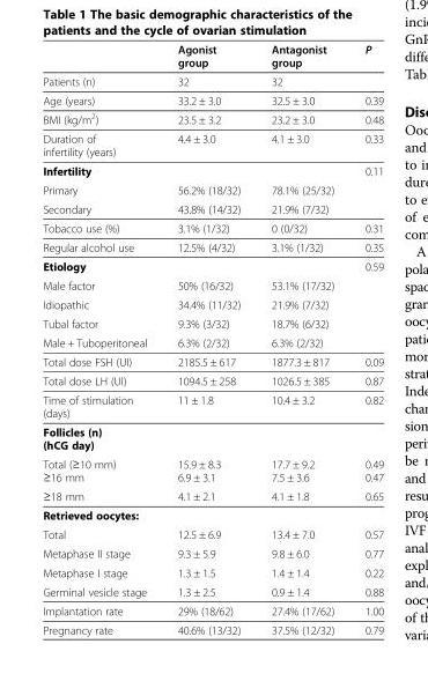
<table><thead><tr><td></td><td>Agonist group</td><td>Antagonist group</td><td>P</td></tr></thead><tbody><tr><td>Patients (n)</td><td>32</td><td>32</td><td></td></tr><tr><td>Age (years)</td><td>33.2 ± 3.0</td><td>32.5 ± 3.0</td><td>0.39</td></tr><tr><td>BMI (kg/m<sup>2</sup>)</td><td>23.5 ± 3.2</td><td>23.2 ± 3.0</td><td>0.48</td></tr><tr><td>Duration of infertility (years)</td><td>4.4 ± 3.0</td><td>4.1 ± 3.0</td><td>0.33</td></tr><tr><td>Infertility</td><td></td><td></td><td>0.11</td></tr><tr><td>Primary</td><td>56.2% (18/32)</td><td>78.1% (25/32)</td><td></td></tr><tr><td>Secondary</td><td>43.8% (14/32)</td><td>21.9% (7/32)</td><td></td></tr><tr><td>Tobacco use (%)</td><td>3.1% (1/32)</td><td>0 (0/32)</td><td>0.31</td></tr><tr><td>Regular alcohol use</td><td>12.5% (4/32)</td><td>3.1% (1/32)</td><td>0.35</td></tr><tr><td>Etiology</td><td></td><td></td><td>0.59</td></tr><tr><td>Male factor</td><td>50% (16/32)</td><td>53.1% (17/32)</td><td></td></tr><tr><td>Idiopathic</td><td>34.4% (11/32)</td><td>21.9% (7/32)</td><td></td></tr><tr><td>Tubal factor</td><td>9.3% (3/32)</td><td>18.7% (6/32)</td><td></td></tr><tr><td>Male + Tuboperitoneal</td><td>6.3% (2/32)</td><td>6.3% (2/32)</td><td></td></tr><tr><td>Total dose FSH (UI)</td><td>2185.5 ± 617</td><td>1877.3 ± 817</td><td>0.09</td></tr><tr><td>Total dose LH (UI)</td><td>1094.5 ± 258</td><td>1026.5 ± 385</td><td>0.87</td></tr><tr><td>Time of stimulation (days)</td><td>11 ± 1.8</td><td>10.4 ± 3.2</td><td>0.82</td></tr><tr><td colspan="4">Follicles (n) (hCG day)</td></tr><tr><td>Total (≥10 mm) ≥16 mm</td><td>15.9 ± 8.3 6.9 ± 3.1</td><td>17.7 ± 9.2 7.5 ± 3.6</td><td>0.49 0.47</td></tr><tr><td>≥18 mm</td><td>4.1 ± 2.1</td><td>4.1 ± 1.8</td><td>0.65</td></tr><tr><td colspan="4">Retrieved oocytes:</td></tr><tr><td>Total</td><td>12.5 ± 6.9</td><td>13.4 ± 7.0</td><td>0.57</td></tr><tr><td>Metaphase II stage</td><td>9.3 ± 5.9</td><td>9.8 ± 6.0</td><td>0.77</td></tr><tr><td>Metaphase I stage</td><td>1.3 ± 1.5</td><td>1.4 ± 1.4</td><td>0.22</td></tr><tr><td>Germinal vesicle stage</td><td>1.3 ± 2.5</td><td>0.9 ± 1.4</td><td>0.88</td></tr><tr><td>Implantation rate</td><td>29% (18/62)</td><td>27.4% (17/62)</td><td>1.00</td></tr><tr><td>Pregnancy rate</td><td>40.6% (13/32)</td><td>37.5% (12/32)</td><td>0.79</td></tr></tbody></table>